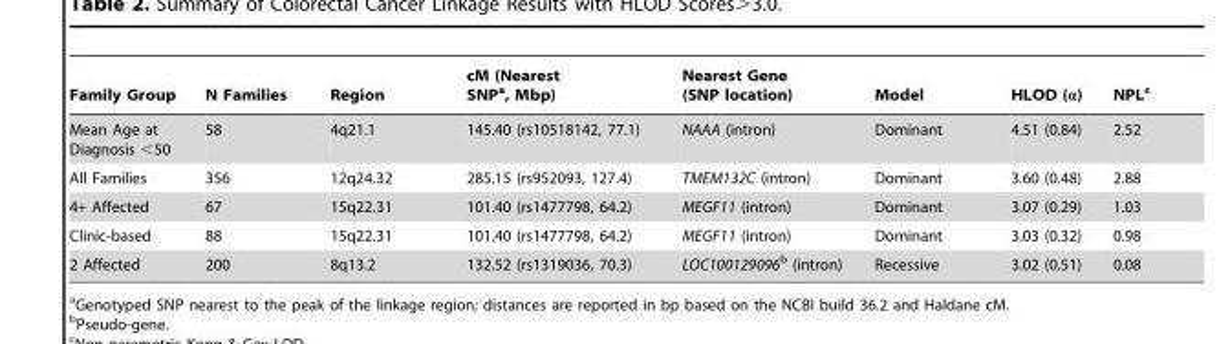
<table><thead><tr><td>Family Group</td><td>N Families</td><td>Region</td><td>cM (Nearest SNP<sup>a</sup>, Mbp)</td><td>Nearest Gene (SNP location)</td><td>Model</td><td>HLOD (α)</td><td>NPL<sup>c</sup></td></tr></thead><tbody><tr><td>Mean Age at Diagnosis &lt;50</td><td>58</td><td>4q21.1</td><td>145.40 (rs10518142, 77.1)</td><td>NAAA (intron)</td><td>Dominant</td><td>4.51 (0.84)</td><td>2.52</td></tr><tr><td>All Families</td><td>356</td><td>12q24.32</td><td>285.15 (rs952093, 127.4)</td><td>TMEM132C (intron)</td><td>Dominant</td><td>3.60 (0.48)</td><td>2.88</td></tr><tr><td>4+ Affected</td><td>67</td><td>15q22.31</td><td>101.40 (rs1477798, 64.2)</td><td>MEGF11 (intron)</td><td>Dominant</td><td>3.07 (0.29)</td><td>1.03</td></tr><tr><td>Clinic-based</td><td>88</td><td>15q22.31</td><td>101.40 (rs1477798, 64.2)</td><td>MEGF11 (intron)</td><td>Dominant</td><td>3.03 (0.32)</td><td>0.98</td></tr><tr><td>2 Affected</td><td>200</td><td>8q13.2</td><td>132.52 (rs1319036, 70.3)</td><td>LOC100129096b (intron)</td><td>Recessive</td><td>3.02 (0.51)</td><td>0.08</td></tr></tbody></table>